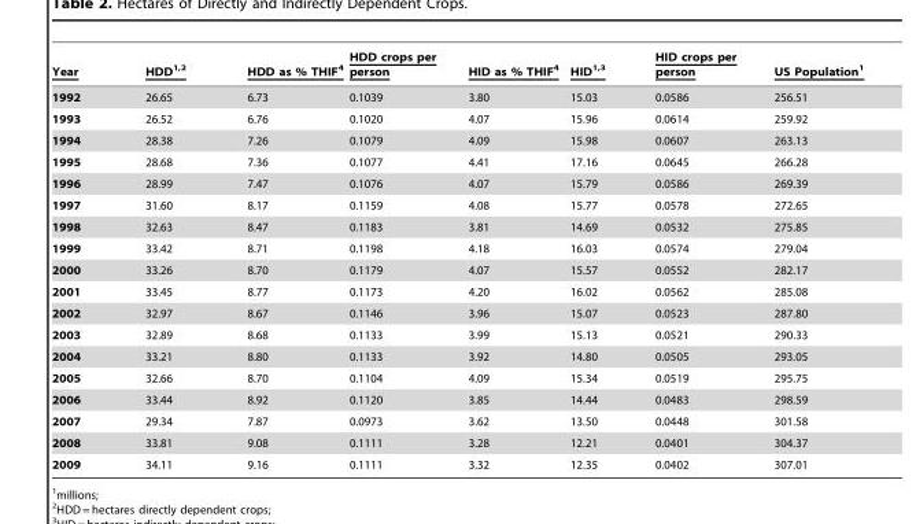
<table><thead><tr><td>Year</td><td>HDD1<sup>,</sup>2</td><td>HDD as % THIF4</td><td>HDD crops per person</td><td>HID as % THIF4</td><td>HID1<sup>,</sup>3</td><td>HID crops per person</td><td>US Population1</td></tr></thead><tbody><tr><td>1992</td><td>26.65</td><td>6.73</td><td>0.1039</td><td>3.80</td><td>15.03</td><td>0.0586</td><td>256.51</td></tr><tr><td>1993</td><td>26.52</td><td>6.76</td><td>0.1020</td><td>4.07</td><td>15.96</td><td>0.0614</td><td>259.92</td></tr><tr><td>1994</td><td>28.38</td><td>7.26</td><td>0.1079</td><td>4.09</td><td>15.98</td><td>0.0607</td><td>263.13</td></tr><tr><td>1995</td><td>28.68</td><td>7.36</td><td>0.1077</td><td>4.41</td><td>17.16</td><td>0.0645</td><td>266.28</td></tr><tr><td>1996</td><td>28.99</td><td>7.47</td><td>0.1076</td><td>4.07</td><td>15.79</td><td>0.0586</td><td>269.39</td></tr><tr><td>1997</td><td>31.60</td><td>8.17</td><td>0.1159</td><td>4.08</td><td>15.77</td><td>0.0578</td><td>272.65</td></tr><tr><td>1998</td><td>32.63</td><td>8.47</td><td>0.1183</td><td>3.81</td><td>14.69</td><td>0.0532</td><td>275.85</td></tr><tr><td>1999</td><td>33.42</td><td>8.71</td><td>0.1198</td><td>4.18</td><td>16.03</td><td>0.0574</td><td>279.04</td></tr><tr><td>2000</td><td>33.26</td><td>8.70</td><td>0.1179</td><td>4.07</td><td>15.57</td><td>0.0552</td><td>282.17</td></tr><tr><td>2001</td><td>33.45</td><td>8.77</td><td>0.1173</td><td>4.20</td><td>16.02</td><td>0.0562</td><td>285.08</td></tr><tr><td>2002</td><td>32.97</td><td>8.67</td><td>0.1146</td><td>3.96</td><td>15.07</td><td>0.0523</td><td>287.80</td></tr><tr><td>2003</td><td>32.89</td><td>8.68</td><td>0.1133</td><td>3.99</td><td>15.13</td><td>0.0521</td><td>290.33</td></tr><tr><td>2004</td><td>33.21</td><td>8.80</td><td>0.1133</td><td>3.92</td><td>14.80</td><td>0.0505</td><td>293.05</td></tr><tr><td>2005</td><td>32.66</td><td>8.70</td><td>0.1104</td><td>4.09</td><td>15.34</td><td>0.0519</td><td>295.75</td></tr><tr><td>2006</td><td>33.44</td><td>8.92</td><td>0.1120</td><td>3.85</td><td>14.44</td><td>0.0483</td><td>298.59</td></tr><tr><td>2007</td><td>29.34</td><td>7.87</td><td>0.0973</td><td>3.62</td><td>13.50</td><td>0.0448</td><td>301.58</td></tr><tr><td>2008</td><td>33.81</td><td>9.08</td><td>0.1111</td><td>3.28</td><td>12.21</td><td>0.0401</td><td>304.37</td></tr><tr><td>2009</td><td>34.11</td><td>9.16</td><td>0.1111</td><td>3.32</td><td>12.35</td><td>0.0402</td><td>307.01</td></tr></tbody></table>